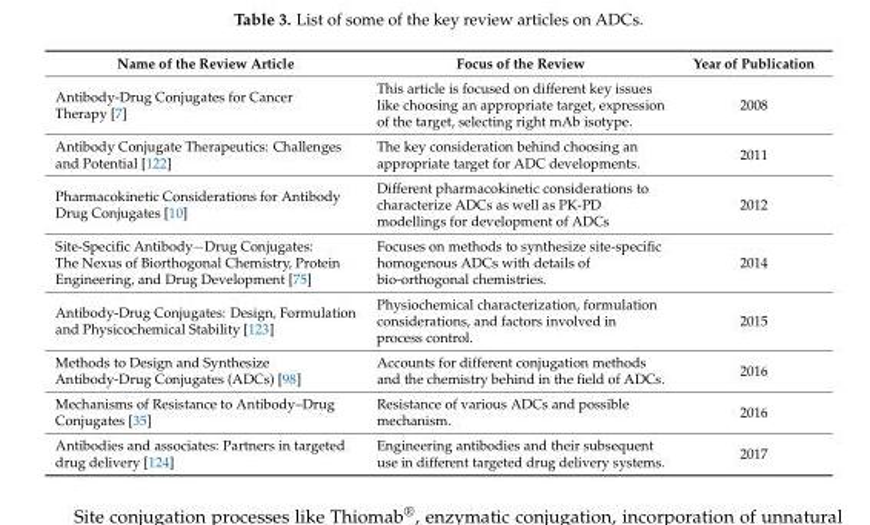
<table><thead><tr><td>Name of the Review Article</td><td>Focus of the Review</td><td>Year of Publication</td></tr></thead><tbody><tr><td>Antibody-Drug Conjugates for Cancer Therapy [7]</td><td>This article is focused on different key issues like choosing an appropriate target, expression of the target, selecting right mAb isotype.</td><td>2008</td></tr><tr><td>Antibody Conjugate Therapeutics: Challenges and Potential [122]</td><td>The key consideration behind choosing an appropriate target for ADC developments.</td><td>2011</td></tr><tr><td>Pharmacokinetic Considerations for Antibody Drug Conjugates [10]</td><td>Different pharmacokinetic considerations to characterize ADCs as well as PK-PD modellings for development of ADCs</td><td>2012</td></tr><tr><td>Site-Specific Antibody−Drug Conjugates: The Nexus of Biorthogonal Chemistry, Protein Engineering, and Drug Development [75]</td><td>Focuses on methods to synthesize site-specific homogenous ADCs with details of bio-orthogonal chemistries.</td><td>2014</td></tr><tr><td>Antibody-Drug Conjugates: Design, Formulation and Physicochemical Stability [123]</td><td>Physiochemical characterization, formulation considerations, and factors involved in process control.</td><td>2015</td></tr><tr><td>Methods to Design and Synthesize Antibody-Drug Conjugates (ADCs) [98]</td><td>Accounts for different conjugation methods and the chemistry behind in the field of ADCs.</td><td>2016</td></tr><tr><td>Mechanisms of Resistance to Antibody–Drug Conjugates [35]</td><td>Resistance of various ADCs and possible mechanism.</td><td>2016</td></tr><tr><td>Antibodies and associates: Partners in targeted drug delivery [124]</td><td>Engineering antibodies and their subsequent use in different targeted drug delivery systems.</td><td>2017</td></tr></tbody></table>